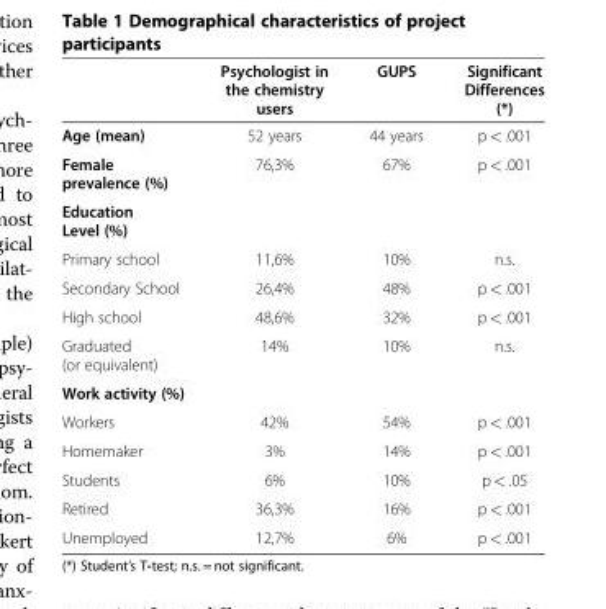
<table><thead><tr><td></td><td>Psychologist in the chemistry users</td><td>GUPS</td><td>Significant Differences (*)</td></tr></thead><tbody><tr><td>Age (mean)</td><td>52 years</td><td>44 years</td><td>p &lt; .001</td></tr><tr><td>Female prevalence (%)</td><td>76,3%</td><td>67%</td><td>p &lt; .001</td></tr><tr><td colspan="4">Education Level (%)</td></tr><tr><td>Primary school</td><td>11,6%</td><td>10%</td><td>n.s.</td></tr><tr><td>Secondary School</td><td>26,4%</td><td>48%</td><td>p &lt; .001</td></tr><tr><td>High school</td><td>48,6%</td><td>32%</td><td>p &lt; .001</td></tr><tr><td>Graduated (or equivalent)</td><td>14%</td><td>10%</td><td>n.s.</td></tr><tr><td colspan="4">Work activity (%)</td></tr><tr><td>Workers</td><td>42%</td><td>54%</td><td>p &lt; .001</td></tr><tr><td>Homemaker</td><td>3%</td><td>14%</td><td>p &lt; .001</td></tr><tr><td>Students</td><td>6%</td><td>10%</td><td>p &lt; .05</td></tr><tr><td>Retired</td><td>36,3%</td><td>16%</td><td>p &lt; .001</td></tr><tr><td>Unemployed</td><td>12,7%</td><td>6%</td><td>p &lt; .001</td></tr></tbody></table>